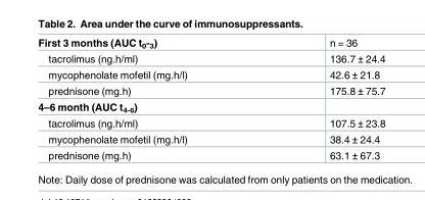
<table><tbody><tr><td>First 3 months (AUC t<sub>0</sub>-<sub>3</sub>)</td><td>n = 36</td></tr><tr><td>tacrolimus (ng.h/ml)</td><td>136.7 ± 24.4</td></tr><tr><td>mycophenolate mofetil (mg.h/l)</td><td>42.6 ± 21.8</td></tr><tr><td>prednisone (mg.h)</td><td>175.8 ± 75.7</td></tr><tr><td colspan="2">4–6 month (AUC t<sub>4-6</sub>)</td></tr><tr><td>tacrolimus (ng.h/ml)</td><td>107.5 ± 23.8</td></tr><tr><td>mycophenolate mofetil (mg.h/l)</td><td>38.4 ± 24.4</td></tr><tr><td>prednisone (mg.h)</td><td>63.1 ± 67.3</td></tr></tbody></table>